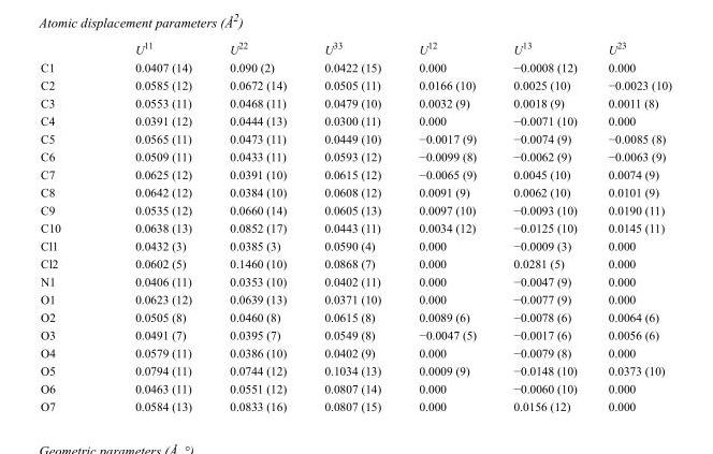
<table><thead><tr><td></td><td>U<sup>11</sup></td><td>U<sup>22</sup></td><td>U<sup>33</sup></td><td>U<sup>12</sup></td><td>U<sup>13</sup></td><td>U<sup>23</sup></td></tr></thead><tbody><tr><td>C1</td><td>0.0407 (14)</td><td>0.090 (2)</td><td>0.0422 (15)</td><td>0.000</td><td>−0.0008 (12)</td><td>0.000</td></tr><tr><td>C2</td><td>0.0585 (12)</td><td>0.0672 (14)</td><td>0.0505 (11)</td><td>0.0166 (10)</td><td>0.0025 (10)</td><td>−0.0023 (10)</td></tr><tr><td>C3</td><td>0.0553 (11)</td><td>0.0468 (11)</td><td>0.0479 (10)</td><td>0.0032 (9)</td><td>0.0018 (9)</td><td>0.0011 (8)</td></tr><tr><td>C4</td><td>0.0391 (12)</td><td>0.0444 (13)</td><td>0.0300 (11)</td><td>0.000</td><td>−0.0071 (10)</td><td>0.000</td></tr><tr><td>C5</td><td>0.0565 (11)</td><td>0.0473 (11)</td><td>0.0449 (10)</td><td>−0.0017 (9)</td><td>−0.0074 (9)</td><td>−0.0085 (8)</td></tr><tr><td>C6</td><td>0.0509 (11)</td><td>0.0433 (11)</td><td>0.0593 (12)</td><td>−0.0099 (8)</td><td>−0.0062 (9)</td><td>−0.0063 (9)</td></tr><tr><td>C7</td><td>0.0625 (12)</td><td>0.0391 (10)</td><td>0.0615 (12)</td><td>−0.0065 (9)</td><td>0.0045 (10)</td><td>0.0074 (9)</td></tr><tr><td>C8</td><td>0.0642 (12)</td><td>0.0384 (10)</td><td>0.0608 (12)</td><td>0.0091 (9)</td><td>0.0062 (10)</td><td>0.0101 (9)</td></tr><tr><td>C9</td><td>0.0535 (12)</td><td>0.0660 (14)</td><td>0.0605 (13)</td><td>0.0097 (10)</td><td>−0.0093 (10)</td><td>0.0190 (11)</td></tr><tr><td>C10</td><td>0.0638 (13)</td><td>0.0852 (17)</td><td>0.0443 (11)</td><td>0.0034 (12)</td><td>−0.0125 (10)</td><td>0.0145 (11)</td></tr><tr><td>Cl1</td><td>0.0432 (3)</td><td>0.0385 (3)</td><td>0.0590 (4)</td><td>0.000</td><td>−0.0009 (3)</td><td>0.000</td></tr><tr><td>Cl2</td><td>0.0602 (5)</td><td>0.1460 (10)</td><td>0.0868 (7)</td><td>0.000</td><td>0.0281 (5)</td><td>0.000</td></tr><tr><td>N1</td><td>0.0406 (11)</td><td>0.0353 (10)</td><td>0.0402 (11)</td><td>0.000</td><td>−0.0047 (9)</td><td>0.000</td></tr><tr><td>O1</td><td>0.0623 (12)</td><td>0.0639 (13)</td><td>0.0371 (10)</td><td>0.000</td><td>−0.0077 (9)</td><td>0.000</td></tr><tr><td>O2</td><td>0.0505 (8)</td><td>0.0460 (8)</td><td>0.0615 (8)</td><td>0.0089 (6)</td><td>−0.0078 (6)</td><td>0.0064 (6)</td></tr><tr><td>O3</td><td>0.0491 (7)</td><td>0.0395 (7)</td><td>0.0549 (8)</td><td>−0.0047 (5)</td><td>−0.0017 (6)</td><td>0.0056 (6)</td></tr><tr><td>O4</td><td>0.0579 (11)</td><td>0.0386 (10)</td><td>0.0402 (9)</td><td>0.000</td><td>−0.0079 (8)</td><td>0.000</td></tr><tr><td>O5</td><td>0.0794 (11)</td><td>0.0744 (12)</td><td>0.1034 (13)</td><td>0.0009 (9)</td><td>−0.0148 (10)</td><td>0.0373 (10)</td></tr><tr><td>O6</td><td>0.0463 (11)</td><td>0.0551 (12)</td><td>0.0807 (14)</td><td>0.000</td><td>−0.0060 (10)</td><td>0.000</td></tr><tr><td>O7</td><td>0.0584 (13)</td><td>0.0833 (16)</td><td>0.0807 (15)</td><td>0.000</td><td>0.0156 (12)</td><td>0.000</td></tr></tbody></table>